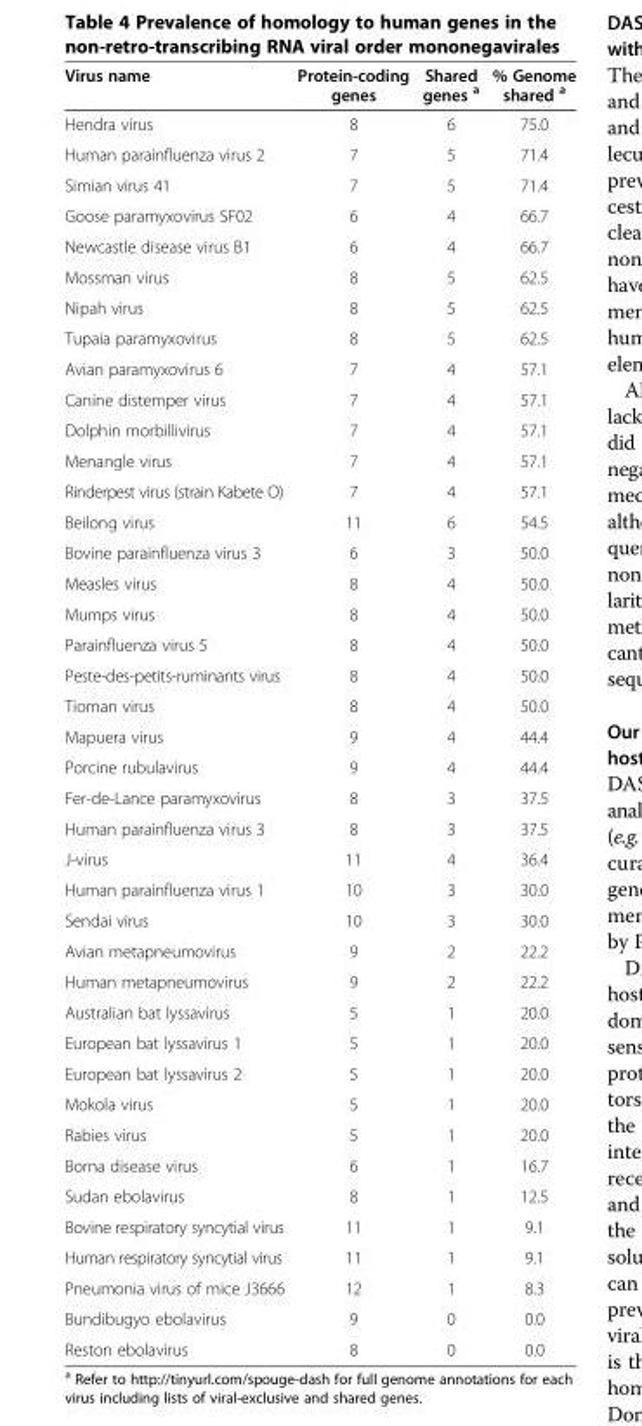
<table><thead><tr><td>Virus name</td><td>Protein-coding genes</td><td>Shared genes <sup>a</sup></td><td>% Genome shared <sup>a</sup></td></tr></thead><tbody><tr><td>Hendra virus</td><td>8</td><td>6</td><td>75.0</td></tr><tr><td>Human parainfluenza virus 2</td><td>7</td><td>5</td><td>71.4</td></tr><tr><td>Simian virus 41</td><td>7</td><td>5</td><td>71.4</td></tr><tr><td>Goose paramyxovirus SF02</td><td>6</td><td>4</td><td>66.7</td></tr><tr><td>Newcastle disease virus B1</td><td>6</td><td>4</td><td>66.7</td></tr><tr><td>Mossman virus</td><td>8</td><td>5</td><td>62.5</td></tr><tr><td>Nipah virus</td><td>8</td><td>5</td><td>62.5</td></tr><tr><td>Tupaia paramyxovirus</td><td>8</td><td>5</td><td>62.5</td></tr><tr><td>Avian paramyxovirus 6</td><td>7</td><td>4</td><td>57.1</td></tr><tr><td>Canine distemper virus</td><td>7</td><td>4</td><td>57.1</td></tr><tr><td>Dolphin morbillivirus</td><td>7</td><td>4</td><td>57.1</td></tr><tr><td>Menangle virus</td><td>7</td><td>4</td><td>57.1</td></tr><tr><td>Rinderpest virus (strain Kabete O)</td><td>7</td><td>4</td><td>57.1</td></tr><tr><td>Beilong virus</td><td>11</td><td>6</td><td>54.5</td></tr><tr><td>Bovine parainfluenza virus 3</td><td>6</td><td>3</td><td>50.0</td></tr><tr><td>Measles virus</td><td>8</td><td>4</td><td>50.0</td></tr><tr><td>Mumps virus</td><td>8</td><td>4</td><td>50.0</td></tr><tr><td>Parainfluenza virus 5</td><td>8</td><td>4</td><td>50.0</td></tr><tr><td>Peste-des-petits-ruminants virus</td><td>8</td><td>4</td><td>50.0</td></tr><tr><td>Tioman virus</td><td>8</td><td>4</td><td>50.0</td></tr><tr><td>Mapuera virus</td><td>9</td><td>4</td><td>44.4</td></tr><tr><td>Porcine rubulavirus</td><td>9</td><td>4</td><td>44.4</td></tr><tr><td>Fer-de-Lance paramyxovirus</td><td>8</td><td>3</td><td>37.5</td></tr><tr><td>Human parainfluenza virus 3</td><td>8</td><td>3</td><td>37.5</td></tr><tr><td>J-virus</td><td>11</td><td>4</td><td>36.4</td></tr><tr><td>Human parainfluenza virus 1</td><td>10</td><td>3</td><td>30.0</td></tr><tr><td>Sendai virus</td><td>10</td><td>3</td><td>30.0</td></tr><tr><td>Avian metapneumovirus</td><td>9</td><td>2</td><td>22.2</td></tr><tr><td>Human metapneumovirus</td><td>9</td><td>2</td><td>22.2</td></tr><tr><td>Australian bat lyssavirus</td><td>5</td><td>1</td><td>20.0</td></tr><tr><td>European bat lyssavirus 1</td><td>5</td><td>1</td><td>20.0</td></tr><tr><td>European bat lyssavirus 2</td><td>5</td><td>1</td><td>20.0</td></tr><tr><td>Mokola virus</td><td>5</td><td>1</td><td>20.0</td></tr><tr><td>Rabies virus</td><td>5</td><td>1</td><td>20.0</td></tr><tr><td>Borna disease virus</td><td>6</td><td>1</td><td>16.7</td></tr><tr><td>Sudan ebolavirus</td><td>8</td><td>1</td><td>12.5</td></tr><tr><td>Bovine respiratory syncytial virus</td><td>11</td><td>1</td><td>9.1</td></tr><tr><td>Human respiratory syncytial virus</td><td>11</td><td>1</td><td>9.1</td></tr><tr><td>Pneumonia virus of mice J3666</td><td>12</td><td>1</td><td>8.3</td></tr><tr><td>Bundibugyo ebolavirus</td><td>9</td><td>0</td><td>0.0</td></tr><tr><td>Reston ebolavirus</td><td>8</td><td>0</td><td>0.0</td></tr></tbody></table>